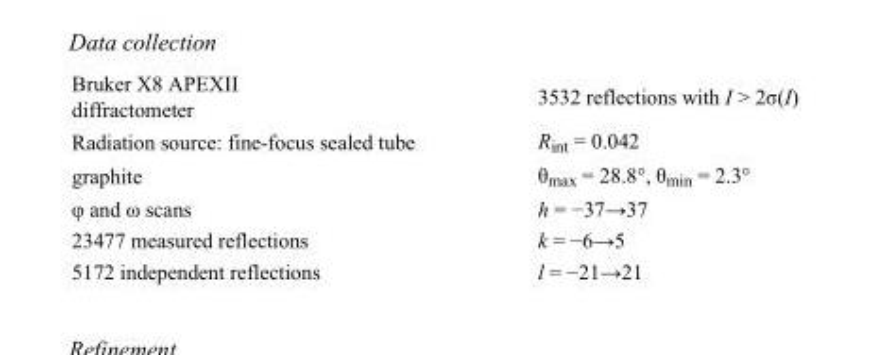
<table><tbody><tr><td>Bruker X8 APEXII diffractometer</td><td>3532 reflections with I &gt; 2σ(I)</td></tr><tr><td>Radiation source: fine-focus sealed tube</td><td>R<sub>int</sub> = 0.042</td></tr><tr><td>graphite</td><td>θ<sub>max</sub> = 28.8°, θ<sub>min</sub> = 2.3°</td></tr><tr><td>φ and ω scans</td><td>h = −37→37</td></tr><tr><td>23477 measured reflections</td><td>k = −6→5</td></tr><tr><td>5172 independent reflections</td><td>l = −21→21</td></tr></tbody></table>